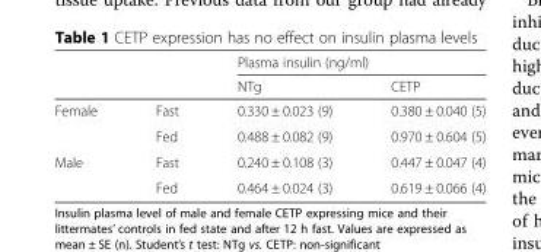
<table><thead><tr><td rowspan="2"></td><td rowspan="2"></td><td colspan="2">Plasma insulin (ng/ml)</td></tr><tr><td>NTg</td><td>CETP</td></tr></thead><tbody><tr><td rowspan="2">Female</td><td>Fast</td><td>0.330 ± 0.023 (9)</td><td>0.380 ± 0.040 (5)</td></tr><tr><td>Fed</td><td>0.488 ± 0.082 (9)</td><td>0.970 ± 0.604 (5)</td></tr><tr><td rowspan="2">Male</td><td>Fast</td><td>0.240 ± 0.108 (3)</td><td>0.447 ± 0.047 (4)</td></tr><tr><td>Fed</td><td>0.464 ± 0.024 (3)</td><td>0.619 ± 0.066 (4)</td></tr></tbody></table>